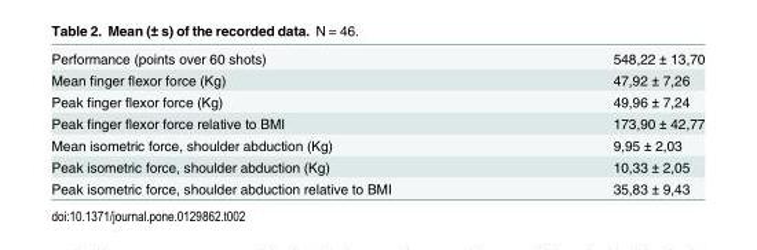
<table><tbody><tr><td>Performance (points over 60 shots)</td><td>548,22 ± 13,70</td></tr><tr><td>Mean finger flexor force (Kg)</td><td>47,92 ± 7,26</td></tr><tr><td>Peak finger flexor force (Kg)</td><td>49,96 ± 7,24</td></tr><tr><td>Peak finger flexor force relative to BMI</td><td>173,90 ± 42,77</td></tr><tr><td>Mean isometric force, shoulder abduction (Kg)</td><td>9,95 ± 2,03</td></tr><tr><td>Peak isometric force, shoulder abduction (Kg)</td><td>10,33 ± 2,05</td></tr><tr><td>Peak isometric force, shoulder abduction relative to BMI</td><td>35,83 ± 9,43</td></tr></tbody></table>